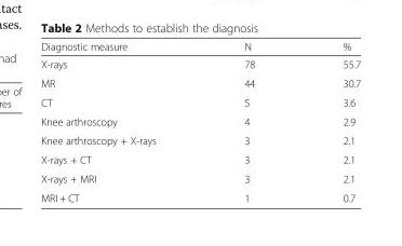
<table><thead><tr><td>Diagnostic measure</td><td>N</td><td>%</td></tr></thead><tbody><tr><td>X-rays</td><td>78</td><td>55.7</td></tr><tr><td>MR</td><td>44</td><td>30.7</td></tr><tr><td>CT</td><td>5</td><td>3.6</td></tr><tr><td>Knee arthroscopy</td><td>4</td><td>2.9</td></tr><tr><td>Knee arthroscopy + X-rays</td><td>3</td><td>2.1</td></tr><tr><td>X-rays + CT</td><td>3</td><td>2.1</td></tr><tr><td>X-rays + MRI</td><td>3</td><td>2.1</td></tr><tr><td>MRI + CT</td><td>1</td><td>0.7</td></tr></tbody></table>